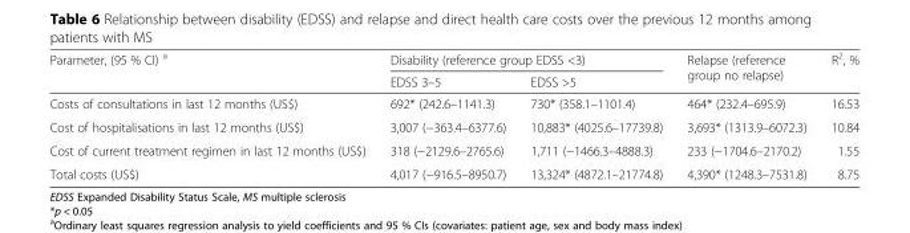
<table><thead><tr><td rowspan="2">Parameter, (95 % CI) <sup>a</sup></td><td colspan="2">Disability (reference group EDSS &lt;3)</td><td rowspan="2">Relapse (reference group no relapse)</td><td rowspan="2">R<sup>2</sup>, %</td></tr><tr><td>EDSS 3–5</td><td>EDSS &gt;5</td></tr></thead><tbody><tr><td>Costs of consultations in last 12 months (US$)</td><td>692* (242.6–1141.3)</td><td>730* (358.1–1101.4)</td><td>464* (232.4–695.9)</td><td>16.53</td></tr><tr><td>Cost of hospitalisations in last 12 months (US$)</td><td>3,007 (−363.4–6377.6)</td><td>10,883* (4025.6–17739.8)</td><td>3,693* (1313.9–6072.3)</td><td>10.84</td></tr><tr><td>Cost of current treatment regimen in last 12 months (US$)</td><td>318 (−2129.6–2765.6)</td><td>1,711 (−1466.3–4888.3)</td><td>233 (−1704.6–2170.2)</td><td>1.55</td></tr><tr><td>Total costs (US$)</td><td>4,017 (−916.5–8950.7)</td><td>13,324* (4872.1–21774.8)</td><td>4,390* (1248.3–7531.8)</td><td>8.75</td></tr></tbody></table>